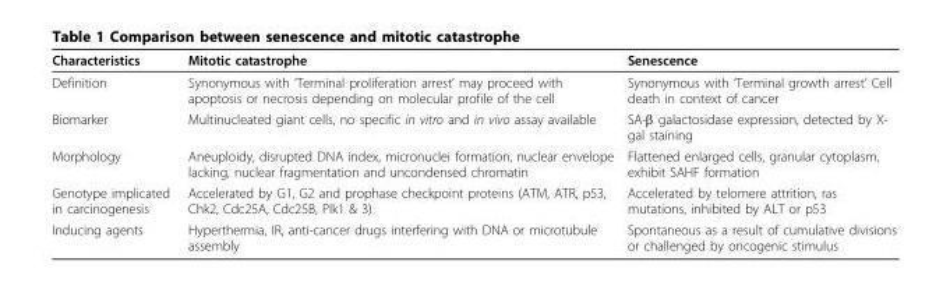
<table><thead><tr><td>Characteristics</td><td>Mitotic catastrophe</td><td>Senescence</td></tr></thead><tbody><tr><td>Definition</td><td>Synonymous with ‘Terminal proliferation arrest’ may proceed with apoptosis or necrosis depending on molecular profile of the cell</td><td>Synonymous with ‘Terminal growth arrest’ Cell death in context of cancer</td></tr><tr><td>Biomarker</td><td>Multinucleated giant cells, no specific in vitro and in vivo assay available</td><td>SA-β galactosidase expression, detected by X- gal staining</td></tr><tr><td>Morphology</td><td>Aneuploidy, disrupted DNA index, micronuclei formation, nuclear envelope lacking, nuclear fragmentation and uncondensed chromatin</td><td>Flattened enlarged cells, granular cytoplasm, exhibit SAHF formation</td></tr><tr><td>Genotype implicated in carcinogenesis</td><td>Accelerated by G1, G2 and prophase checkpoint proteins (ATM, ATR, p53, Chk2, Cdc25A, Cdc25B, Plk1 &amp; 3)</td><td>Accelerated by telomere attrition, ras mutations, inhibited by ALT or p53</td></tr><tr><td>Inducing agents</td><td>Hyperthermia, IR, anti-cancer drugs interfering with DNA or microtubule assembly</td><td>Spontaneous as a result of cumulative divisions or challenged by oncogenic stimulus</td></tr></tbody></table>